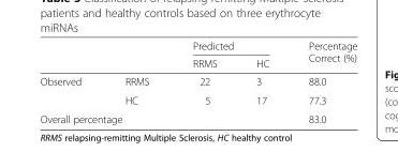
<table><thead><tr><td rowspan="2"></td><td rowspan="2"></td><td colspan="2">Predicted</td><td rowspan="2">Percentage Correct (%)</td></tr><tr><td>RRMS</td><td>HC</td></tr></thead><tbody><tr><td rowspan="2">Observed</td><td>RRMS</td><td>22</td><td>3</td><td>88.0</td></tr><tr><td>HC</td><td>5</td><td>17</td><td>77.3</td></tr><tr><td colspan="2">Overall percentage</td><td></td><td></td><td>83.0</td></tr></tbody></table>